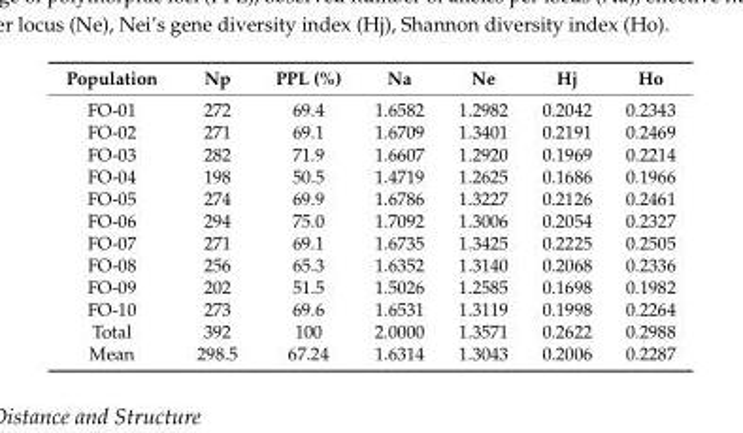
<table><thead><tr><td>Population</td><td>Np</td><td>PPL (%)</td><td>Na</td><td>Ne</td><td>Hj</td><td>Ho</td></tr></thead><tbody><tr><td>FO-01</td><td>272</td><td>69.4</td><td>1.6582</td><td>1.2982</td><td>0.2042</td><td>0.2343</td></tr><tr><td>FO-02</td><td>271</td><td>69.1</td><td>1.6709</td><td>1.3401</td><td>0.2191</td><td>0.2469</td></tr><tr><td>FO-03</td><td>282</td><td>71.9</td><td>1.6607</td><td>1.2920</td><td>0.1969</td><td>0.2214</td></tr><tr><td>FO-04</td><td>198</td><td>50.5</td><td>1.4719</td><td>1.2625</td><td>0.1686</td><td>0.1966</td></tr><tr><td>FO-05</td><td>274</td><td>69.9</td><td>1.6786</td><td>1.3227</td><td>0.2126</td><td>0.2461</td></tr><tr><td>FO-06</td><td>294</td><td>75.0</td><td>1.7092</td><td>1.3006</td><td>0.2054</td><td>0.2327</td></tr><tr><td>FO-07</td><td>271</td><td>69.1</td><td>1.6735</td><td>1.3425</td><td>0.2225</td><td>0.2505</td></tr><tr><td>FO-08</td><td>256</td><td>65.3</td><td>1.6352</td><td>1.3140</td><td>0.2068</td><td>0.2336</td></tr><tr><td>FO-09</td><td>202</td><td>51.5</td><td>1.5026</td><td>1.2585</td><td>0.1698</td><td>0.1982</td></tr><tr><td>FO-10</td><td>273</td><td>69.6</td><td>1.6531</td><td>1.3119</td><td>0.1998</td><td>0.2264</td></tr><tr><td>Total</td><td>392</td><td>100</td><td>2.0000</td><td>1.3571</td><td>0.2622</td><td>0.2988</td></tr><tr><td>Mean</td><td>298.5</td><td>67.24</td><td>1.6314</td><td>1.3043</td><td>0.2006</td><td>0.2287</td></tr></tbody></table>